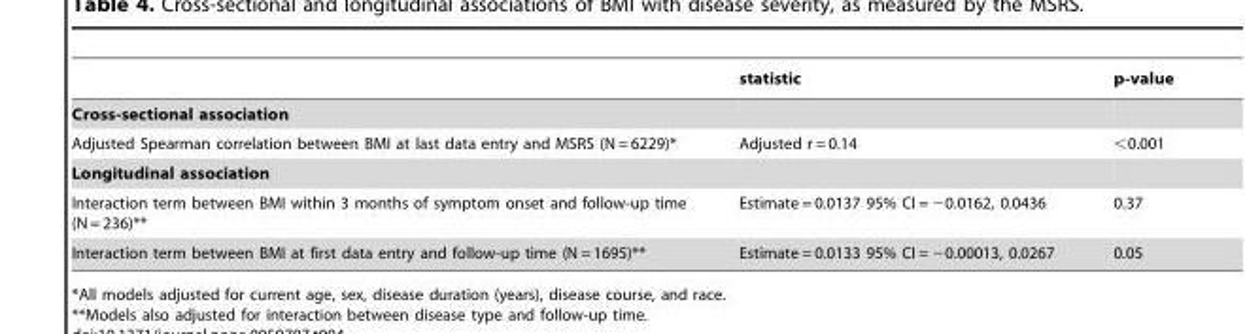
<table><thead><tr><td></td><td>statistic</td><td>p-value</td></tr></thead><tbody><tr><td colspan="3">Cross-sectional association</td></tr><tr><td>Adjusted Spearman correlation between BMI at last data entry and MSRS (N = 6229)*</td><td>Adjusted r = 0.14</td><td>&lt;0.001</td></tr><tr><td colspan="3">Longitudinal association</td></tr><tr><td>Interaction term between BMI within 3 months of symptom onset and follow-up time (N = 236)**</td><td>Estimate = 0.0137 95% CI = −0.0162, 0.0436</td><td>0.37</td></tr><tr><td>Interaction term between BMI at first data entry and follow-up time (N = 1695)**</td><td>Estimate = 0.0133 95% CI = −0.00013, 0.0267</td><td>0.05</td></tr></tbody></table>